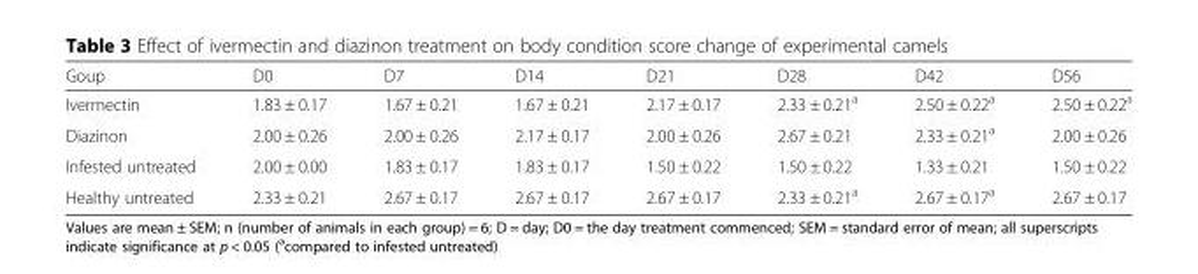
<table><thead><tr><td>Goup</td><td>D0</td><td>D7</td><td>D14</td><td>D21</td><td>D28</td><td>D42</td><td>D56</td></tr></thead><tbody><tr><td>Ivermectin</td><td>1.83 ± 0.17</td><td>1.67 ± 0.21</td><td>1.67 ± 0.21</td><td>2.17 ± 0.17</td><td>2.33 ± 0.21<sup>a</sup></td><td>2.50 ± 0.22<sup>a</sup></td><td>2.50 ± 0.22<sup>a</sup></td></tr><tr><td>Diazinon</td><td>2.00 ± 0.26</td><td>2.00 ± 0.26</td><td>2.17 ± 0.17</td><td>2.00 ± 0.26</td><td>2.67 ± 0.21</td><td>2.33 ± 0.21<sup>a</sup></td><td>2.00 ± 0.26</td></tr><tr><td>Infested untreated</td><td>2.00 ± 0.00</td><td>1.83 ± 0.17</td><td>1.83 ± 0.17</td><td>1.50 ± 0.22</td><td>1.50 ± 0.22</td><td>1.33 ± 0.21</td><td>1.50 ± 0.22</td></tr><tr><td>Healthy untreated</td><td>2.33 ± 0.21</td><td>2.67 ± 0.17</td><td>2.67 ± 0.17</td><td>2.67 ± 0.17</td><td>2.33 ± 0.21<sup>a</sup></td><td>2.67 ± 0.17<sup>a</sup></td><td>2.67 ± 0.17</td></tr></tbody></table>